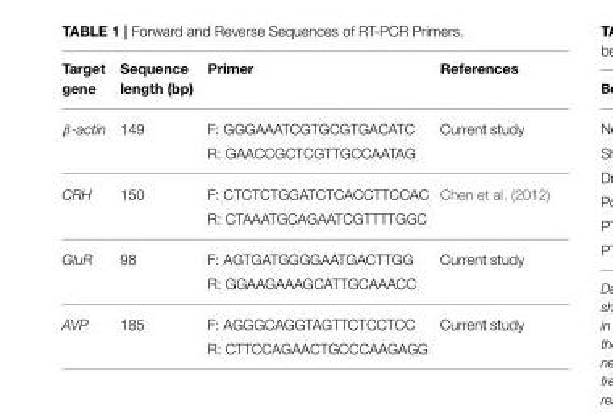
<table><thead><tr><td>Target gene</td><td>Sequence length (bp)</td><td>Primer</td><td>References</td></tr></thead><tbody><tr><td rowspan="2">β-actin</td><td>149</td><td>F: GGGAAATCGTGCGTGACATC</td><td>Current study</td></tr><tr><td></td><td>R: GAACCGCTCGTTGCCAATAG</td><td></td></tr><tr><td rowspan="2">CRH</td><td>150</td><td>F: CTCTCTGGATCTCACCTTCCAC</td><td>Chen et al. (2012)</td></tr><tr><td></td><td>R: CTAAATGCAGAATCGTTTTGGC</td><td></td></tr><tr><td rowspan="2">GluR</td><td>98</td><td>F: AGTGATGGGGAATGACTTGG</td><td>Current study</td></tr><tr><td></td><td>R: GGAAGAAAGCATTGCAAACC</td><td></td></tr><tr><td rowspan="2">AVP</td><td>185</td><td>F: AGGGCAGGTAGTTCTCCTCC</td><td>Current study</td></tr><tr><td></td><td>R: CTTCCAGAACTGCCCAAGAGG</td><td></td></tr></tbody></table>